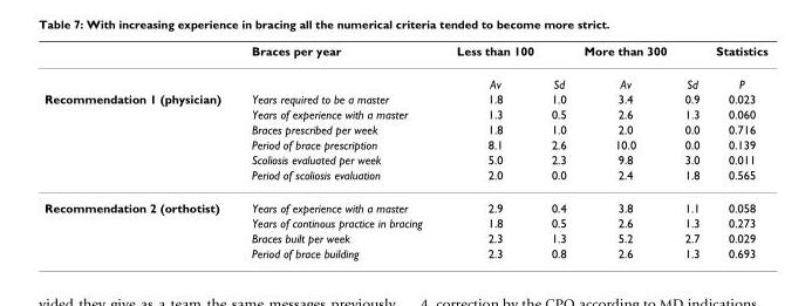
<table><thead><tr><td></td><td>Braces per year</td><td>Less than 100</td><td></td><td>More than 300</td><td></td><td>Statistics</td></tr></thead><tbody><tr><td></td><td></td><td>Av</td><td>Sd</td><td>Av</td><td>Sd</td><td>P</td></tr><tr><td rowspan="6">Recommendation 1 (physician)</td><td>Years required to be a master</td><td>1.8</td><td>1.0</td><td>3.4</td><td>0.9</td><td>0.023</td></tr><tr><td>Years of experience with a master</td><td>1.3</td><td>0.5</td><td>2.6</td><td>1.3</td><td>0.060</td></tr><tr><td>Braces prescribed per week</td><td>1.8</td><td>1.0</td><td>2.0</td><td>0.0</td><td>0.716</td></tr><tr><td>Period of brace prescription</td><td>8.1</td><td>2.6</td><td>10.0</td><td>0.0</td><td>0.139</td></tr><tr><td>Scoliosis evaluated per week</td><td>5.0</td><td>2.3</td><td>9.8</td><td>3.0</td><td>0.011</td></tr><tr><td>Period of scoliosis evaluation</td><td>2.0</td><td>0.0</td><td>2.4</td><td>1.8</td><td>0.565</td></tr><tr><td rowspan="4">Recommendation 2 (orthotist)</td><td>Years of experience with a master</td><td>2.9</td><td>0.4</td><td>3.8</td><td>1.1</td><td>0.058</td></tr><tr><td>Years of continous practice in bracing</td><td>1.8</td><td>0.5</td><td>2.6</td><td>1.3</td><td>0.273</td></tr><tr><td>Braces built per week</td><td>2.3</td><td>1.3</td><td>5.2</td><td>2.7</td><td>0.029</td></tr><tr><td>Period of brace building</td><td>2.3</td><td>0.8</td><td>2.6</td><td>1.3</td><td>0.693</td></tr></tbody></table>